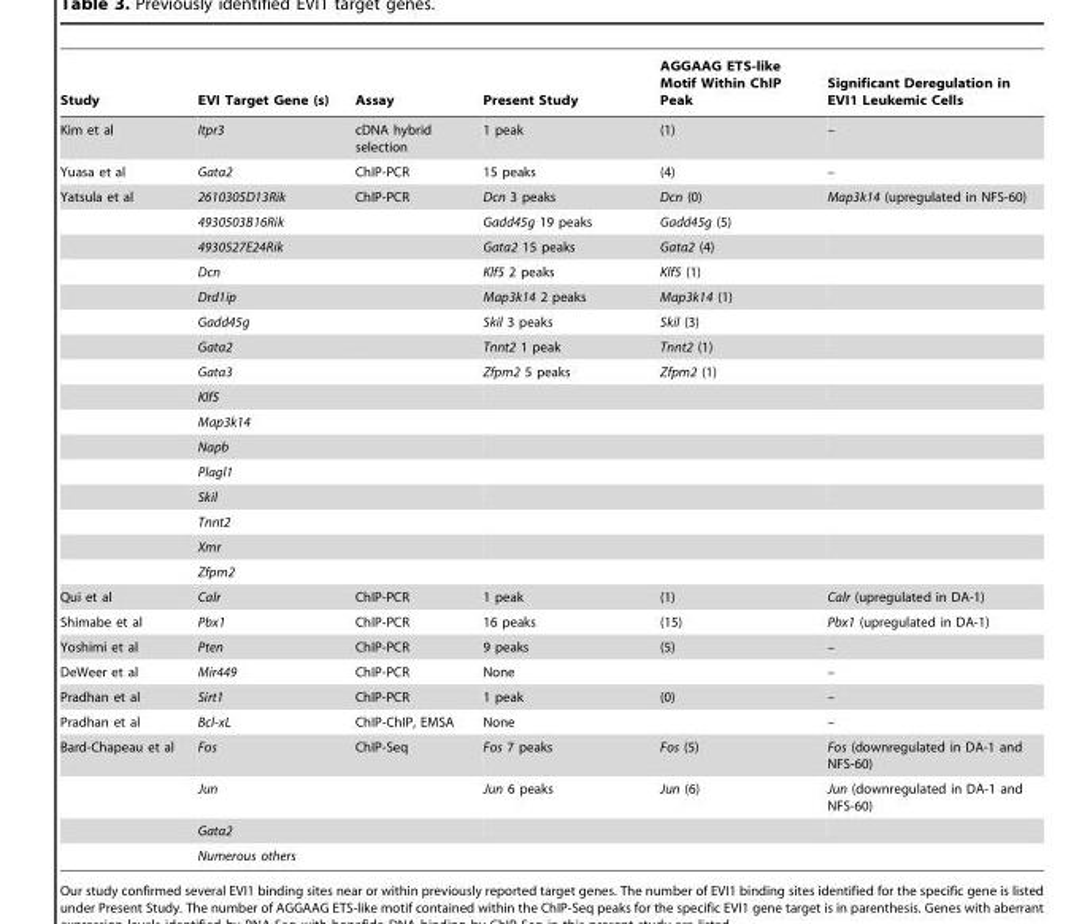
<table><thead><tr><td>Study</td><td>EVI Target Gene (s)</td><td>Assay</td><td>Present Study</td><td>AGGAAG ETS-like Motif Within ChIP Peak</td><td>Significant Deregulation in EVI1 Leukemic Cells</td></tr></thead><tbody><tr><td>Kim et al</td><td>Itpr3</td><td>cDNA hybrid selection</td><td>1 peak</td><td>(1)</td><td>–</td></tr><tr><td>Yuasa et al</td><td>Gata2</td><td>ChIP-PCR</td><td>15 peaks</td><td>(4)</td><td>–</td></tr><tr><td rowspan="16">Yatsula et al</td><td>2610305D13Rik</td><td>ChIP-PCR</td><td>Dcn 3 peaks</td><td>Dcn (0)</td><td>Map3k14 (upregulated in NFS-60)</td></tr><tr><td>4930503B16Rik</td><td></td><td>Gadd45g 19 peaks</td><td>Gadd45g (5)</td><td></td></tr><tr><td>4930527E24Rik</td><td></td><td>Gata2 15 peaks</td><td>Gata2 (4)</td><td></td></tr><tr><td>Dcn</td><td></td><td>Klf5 2 peaks</td><td>Klf5 (1)</td><td></td></tr><tr><td>Drd1ip</td><td></td><td>Map3k14 2 peaks</td><td>Map3k14 (1)</td><td></td></tr><tr><td>Gadd45g</td><td></td><td>Skil 3 peaks</td><td>Skil (3)</td><td></td></tr><tr><td>Gata2</td><td></td><td>Tnnt2 1 peak</td><td>Tnnt2 (1)</td><td></td></tr><tr><td>Gata3</td><td></td><td>Zfpm2 5 peaks</td><td>Zfpm2 (1)</td><td></td></tr><tr><td>Klf5</td><td></td><td></td><td></td><td></td></tr><tr><td>Map3k14</td><td></td><td></td><td></td><td></td></tr><tr><td>Napb</td><td></td><td></td><td></td><td></td></tr><tr><td>Plagl1</td><td></td><td></td><td></td><td></td></tr><tr><td>Skil</td><td></td><td></td><td></td><td></td></tr><tr><td>Tnnt2</td><td></td><td></td><td></td><td></td></tr><tr><td>Xmr</td><td></td><td></td><td></td><td></td></tr><tr><td>Zfpm2</td><td></td><td></td><td></td><td></td></tr><tr><td>Qui et al</td><td>Calr</td><td>ChIP-PCR</td><td>1 peak</td><td>(1)</td><td>Calr (upregulated in DA-1)</td></tr><tr><td>Shimabe et al</td><td>Pbx1</td><td>ChIP-PCR</td><td>16 peaks</td><td>(15)</td><td>Pbx1 (upregulated in DA-1)</td></tr><tr><td>Yoshimi et al</td><td>Pten</td><td>ChIP-PCR</td><td>9 peaks</td><td>(5)</td><td>–</td></tr><tr><td>DeWeer et al</td><td>Mir449</td><td>ChIP-PCR</td><td>None</td><td></td><td>–</td></tr><tr><td>Pradhan et al</td><td>Sirt1</td><td>ChIP-PCR</td><td>1 peak</td><td>(0)</td><td>–</td></tr><tr><td>Pradhan et al</td><td>Bcl-xL</td><td>ChIP-ChIP, EMSA</td><td>None</td><td></td><td>–</td></tr><tr><td rowspan="4">Bard-Chapeau et al</td><td>Fos</td><td>ChIP-Seq</td><td>Fos 7 peaks</td><td>Fos (5)</td><td>Fos (downregulated in DA-1 and NFS-60)</td></tr><tr><td>Jun</td><td></td><td>Jun 6 peaks</td><td>Jun (6)</td><td>Jun (downregulated in DA-1 and NFS-60)</td></tr><tr><td>Gata2</td><td></td><td></td><td></td><td></td></tr><tr><td>Numerous others</td><td></td><td></td><td></td><td></td></tr></tbody></table>